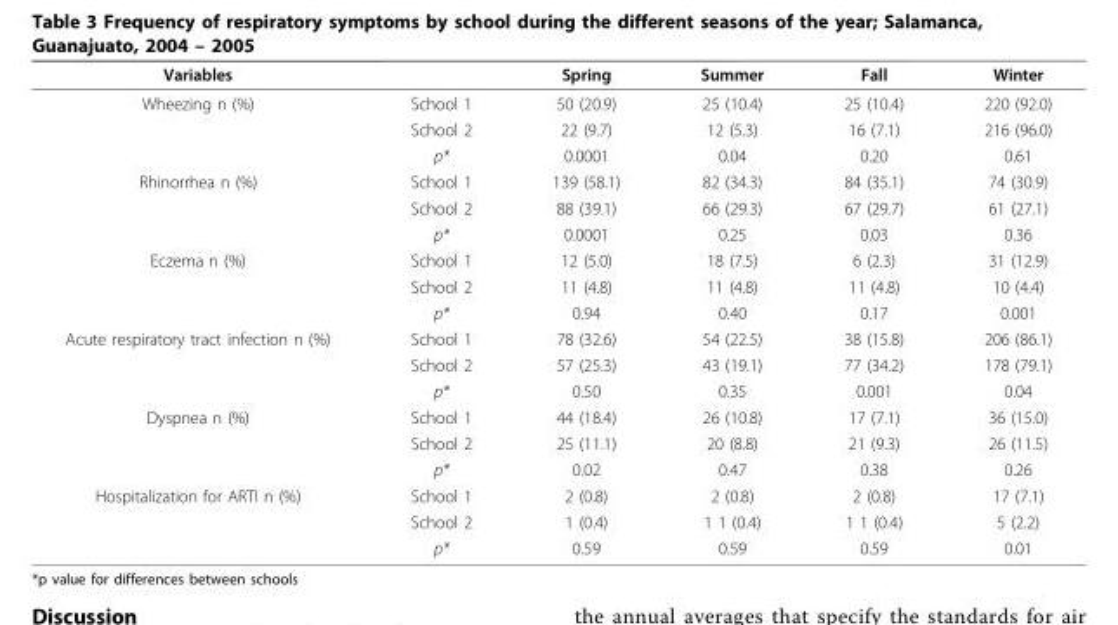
<table><thead><tr><td>Variables</td><td></td><td>Spring</td><td>Summer</td><td>Fall</td><td>Winter</td></tr></thead><tbody><tr><td rowspan="3">Wheezing n (%)</td><td>School 1</td><td>50 (20.9)</td><td>25 (10.4)</td><td>25 (10.4)</td><td>220 (92.0)</td></tr><tr><td>School 2</td><td>22 (9.7)</td><td>12 (5.3)</td><td>16 (7.1)</td><td>216 (96.0)</td></tr><tr><td>p*</td><td>0.0001</td><td>0.04</td><td>0.20</td><td>0.61</td></tr><tr><td rowspan="3">Rhinorrhea n (%)</td><td>School 1</td><td>139 (58.1)</td><td>82 (34.3)</td><td>84 (35.1)</td><td>74 (30.9)</td></tr><tr><td>School 2</td><td>88 (39.1)</td><td>66 (29.3)</td><td>67 (29.7)</td><td>61 (27.1)</td></tr><tr><td>p*</td><td>0.0001</td><td>0.25</td><td>0.03</td><td>0.36</td></tr><tr><td rowspan="3">Eczema n (%)</td><td>School 1</td><td>12 (5.0)</td><td>18 (7.5)</td><td>6 (2.3)</td><td>31 (12.9)</td></tr><tr><td>School 2</td><td>11 (4.8)</td><td>11 (4.8)</td><td>11 (4.8)</td><td>10 (4.4)</td></tr><tr><td>p*</td><td>0.94</td><td>0.40</td><td>0.17</td><td>0.001</td></tr><tr><td rowspan="3">Acute respiratory tract infection n (%)</td><td>School 1</td><td>78 (32.6)</td><td>54 (22.5)</td><td>38 (15.8)</td><td>206 (86.1)</td></tr><tr><td>School 2</td><td>57 (25.3)</td><td>43 (19.1)</td><td>77 (34.2)</td><td>178 (79.1)</td></tr><tr><td>p*</td><td>0.50</td><td>0.35</td><td>0.001</td><td>0.04</td></tr><tr><td rowspan="3">Dyspnea n (%)</td><td>School 1</td><td>44 (18.4)</td><td>26 (10.8)</td><td>17 (7.1)</td><td>36 (15.0)</td></tr><tr><td>School 2</td><td>25 (11.1)</td><td>20 (8.8)</td><td>21 (9.3)</td><td>26 (11.5)</td></tr><tr><td>p*</td><td>0.02</td><td>0.47</td><td>0.38</td><td>0.26</td></tr><tr><td rowspan="3">Hospitalization for ARTI n (%)</td><td>School 1</td><td>2 (0.8)</td><td>2 (0.8)</td><td>2 (0.8)</td><td>17 (7.1)</td></tr><tr><td>School 2</td><td>1 (0.4)</td><td>1 1 (0.4)</td><td>1 1 (0.4)</td><td>5 (2.2)</td></tr><tr><td>p*</td><td>0.59</td><td>0.59</td><td>0.59</td><td>0.01</td></tr></tbody></table>